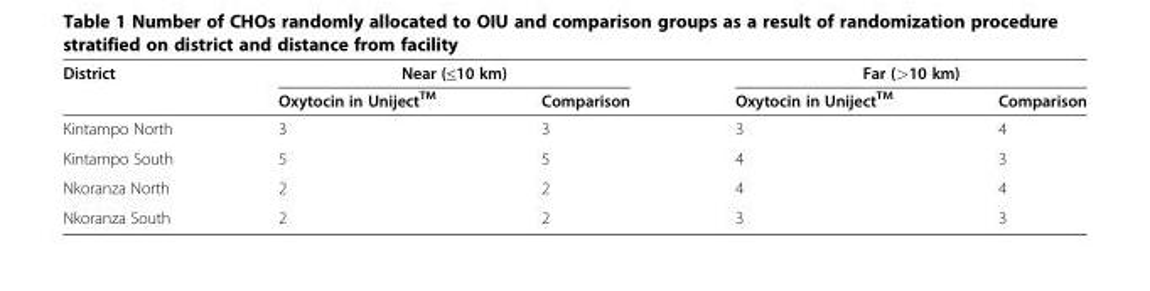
<table><thead><tr><td rowspan="2">District</td><td colspan="2">Near (≤10 km)</td><td colspan="2">Far (&gt;10 km)</td></tr><tr><td>Oxytocin in Uniject<sup>TM</sup></td><td>Comparison</td><td>Oxytocin in Uniject<sup>TM</sup></td><td>Comparison</td></tr></thead><tbody><tr><td>Kintampo North</td><td>3</td><td>3</td><td>3</td><td>4</td></tr><tr><td>Kintampo South</td><td>5</td><td>5</td><td>4</td><td>3</td></tr><tr><td>Nkoranza North</td><td>2</td><td>2</td><td>4</td><td>4</td></tr><tr><td>Nkoranza South</td><td>2</td><td>2</td><td>3</td><td>3</td></tr></tbody></table>